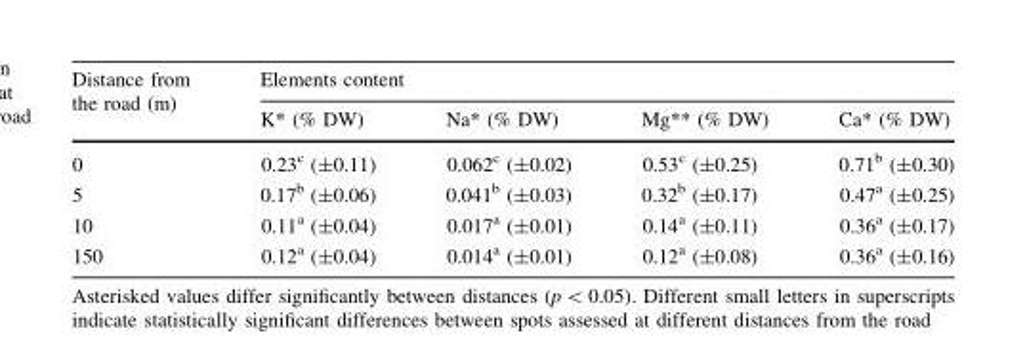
<table><thead><tr><td rowspan="2">Distance from the road (m)</td><td colspan="4">Elements content</td></tr><tr><td>K* (% DW)</td><td>Na* (% DW)</td><td>Mg** (% DW)</td><td>Ca* (% DW)</td></tr></thead><tbody><tr><td>0</td><td>0.23<sup>c</sup> (±0.11)</td><td>0.062<sup>c</sup> (±0.02)</td><td>0.53<sup>c</sup> (±0.25)</td><td>0.71<sup>b</sup> (±0.30)</td></tr><tr><td>5</td><td>0.17<sup>b</sup> (±0.06)</td><td>0.041<sup>b</sup> (±0.03)</td><td>0.32<sup>b</sup> (±0.17)</td><td>0.47<sup>a</sup> (±0.25)</td></tr><tr><td>10</td><td>0.11<sup>a</sup> (±0.04)</td><td>0.017<sup>a</sup> (±0.01)</td><td>0.14<sup>a</sup> (±0.11)</td><td>0.36<sup>a</sup> (±0.17)</td></tr><tr><td>150</td><td>0.12<sup>a</sup> (±0.04)</td><td>0.014<sup>a</sup> (±0.01)</td><td>0.12<sup>a</sup> (±0.08)</td><td>0.36<sup>a</sup> (±0.16)</td></tr></tbody></table>